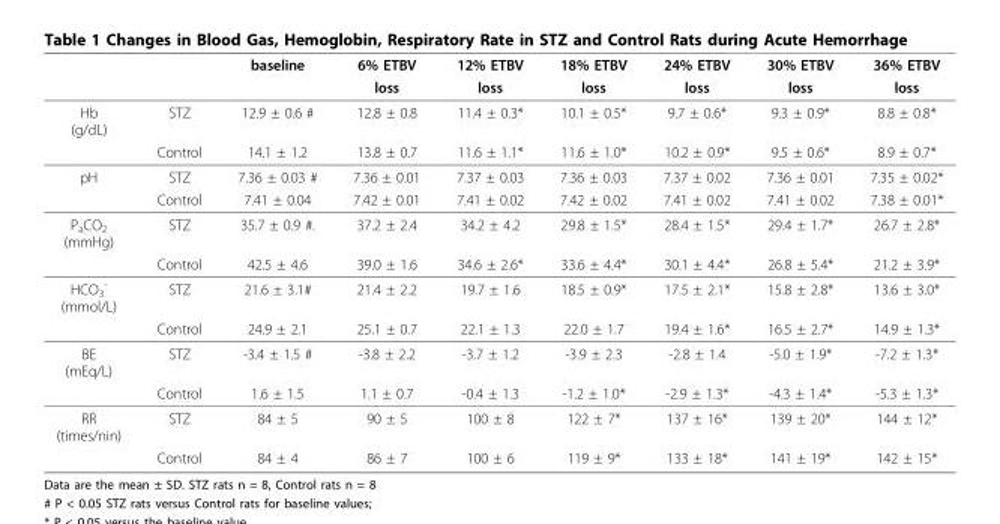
<table><thead><tr><td rowspan="2"></td><td rowspan="2"></td><td rowspan="2">baseline</td><td rowspan="2">6% ETBV loss</td><td rowspan="2">12% ETBV loss</td><td rowspan="2">18% ETBV loss</td><td rowspan="2">24% ETBV loss</td><td rowspan="2">30% ETBV loss</td><td rowspan="2">36% ETBV loss</td></tr><tr></tr></thead><tbody><tr><td rowspan="2">Hb (g/dL)</td><td>STZ</td><td>12.9 ± 0.6 #</td><td>12.8 ± 0.8</td><td>11.4 ± 0.3*</td><td>10.1 ± 0.5*</td><td>9.7 ± 0.6*</td><td>9.3 ± 0.9*</td><td>8.8 ± 0.8*</td></tr><tr><td>Control</td><td>14.1 ± 1.2</td><td>13.8 ± 0.7</td><td>11.6 ± 1.1*</td><td>11.6 ± 1.0*</td><td>10.2 ± 0.9*</td><td>9.5 ± 0.6*</td><td>8.9 ± 0.7*</td></tr><tr><td rowspan="2">pH</td><td>STZ</td><td>7.36 ± 0.03 #</td><td>7.36 ± 0.01</td><td>7.37 ± 0.03</td><td>7.36 ± 0.03</td><td>7.37 ± 0.02</td><td>7.36 ± 0.01</td><td>7.35 ± 0.02*</td></tr><tr><td>Control</td><td>7.41 ± 0.04</td><td>7.42 ± 0.01</td><td>7.41 ± 0.02</td><td>7.42 ± 0.02</td><td>7.41 ± 0.02</td><td>7.41 ± 0.02</td><td>7.38 ± 0.01*</td></tr><tr><td rowspan="2">P<sub>a</sub>CO<sub>2</sub> (mmHg)</td><td>STZ</td><td>35.7 ± 0.9 #.</td><td>37.2 ± 2.4</td><td>34.2 ± 4.2</td><td>29.8 ± 1.5*</td><td>28.4 ± 1.5*</td><td>29.4 ± 1.7*</td><td>26.7 ± 2.8*</td></tr><tr><td>Control</td><td>42.5 ± 4.6</td><td>39.0 ± 1.6</td><td>34.6 ± 2.6*</td><td>33.6 ± 4.4*</td><td>30.1 ± 4.4*</td><td>26.8 ± 5.4*</td><td>21.2 ± 3.9*</td></tr><tr><td rowspan="2">HCO<sub>3</sub> <sup>-</sup> (mmol/L)</td><td>STZ</td><td>21.6 ± 3.1#</td><td>21.4 ± 2.2</td><td>19.7 ± 1.6</td><td>18.5 ± 0.9*</td><td>17.5 ± 2.1*</td><td>15.8 ± 2.8*</td><td>13.6 ± 3.0*</td></tr><tr><td>Control</td><td>24.9 ± 2.1</td><td>25.1 ± 0.7</td><td>22.1 ± 1.3</td><td>22.0 ± 1.7</td><td>19.4 ± 1.6*</td><td>16.5 ± 2.7*</td><td>14.9 ± 1.3*</td></tr><tr><td rowspan="2">BE (mEq/L)</td><td>STZ</td><td>-3.4 ± 1.5 #</td><td>-3.8 ± 2.2</td><td>-3.7 ± 1.2</td><td>-3.9 ± 2.3</td><td>-2.8 ± 1.4</td><td>-5.0 ± 1.9*</td><td>-7.2 ± 1.3*</td></tr><tr><td>Control</td><td>1.6 ± 1.5</td><td>1.1 ± 0.7</td><td>-0.4 ± 1.3</td><td>-1.2 ± 1.0*</td><td>-2.9 ± 1.3*</td><td>-4.3 ± 1.4*</td><td>-5.3 ± 1.3*</td></tr><tr><td rowspan="2">RR (times/nin)</td><td>STZ</td><td>84 ± 5</td><td>90 ± 5</td><td>100 ± 8</td><td>122 ± 7*</td><td>137 ± 16*</td><td>139 ± 20*</td><td>144 ± 12*</td></tr><tr><td>Control</td><td>84 ± 4</td><td>86 ± 7</td><td>100 ± 6</td><td>119 ± 9*</td><td>133 ± 18*</td><td>141 ± 19*</td><td>142 ± 15*</td></tr></tbody></table>